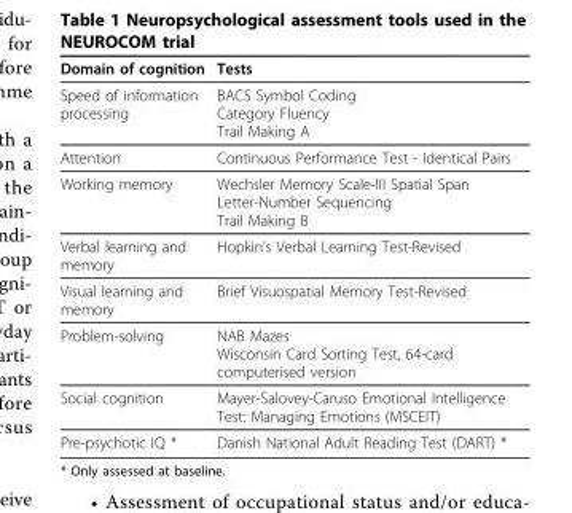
<table><thead><tr><td>Domain of cognition</td><td>Tests</td></tr></thead><tbody><tr><td>Speed of information processing</td><td>BACS Symbol Coding Category Fluency Trail Making A</td></tr><tr><td>Attention</td><td>Continuous Performance Test - Identical Pairs</td></tr><tr><td>Working memory</td><td>Wechsler Memory Scale-III Spatial Span Letter-Number Sequencing Trail Making B</td></tr><tr><td>Verbal learning and memory</td><td>Hopkin’s Verbal Learning Test-Revised</td></tr><tr><td>Visual learning and memory</td><td>Brief Visuospatial Memory Test-Revised</td></tr><tr><td>Problem-solving</td><td>NAB Mazes Wisconsin Card Sorting Test, 64-card computerised version</td></tr><tr><td>Social cognition</td><td>Mayer-Salovey-Caruso Emotional Intelligence Test: Managing Emotions (MSCEIT)</td></tr><tr><td>Pre-psychotic IQ *</td><td>Danish National Adult Reading Test (DART) *</td></tr></tbody></table>